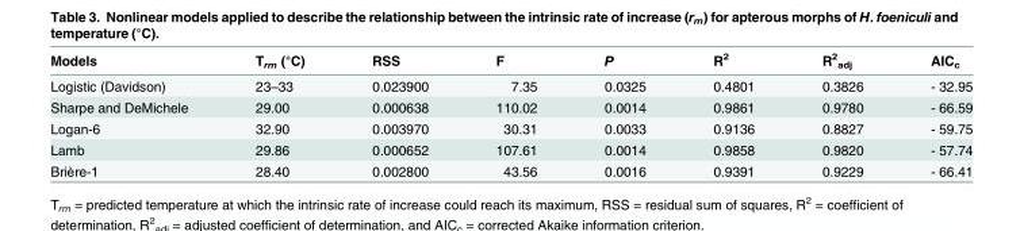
<table><thead><tr><td>Models</td><td>T<sub>rm</sub> (°C)</td><td>RSS</td><td>F</td><td>P</td><td>R<sup>2</sup></td><td>R<sup>2</sup> <sub>adj</sub></td><td>AIC<sub>c</sub></td></tr></thead><tbody><tr><td>Logistic (Davidson)</td><td>23–33</td><td>0.023900</td><td>7.35</td><td>0.0325</td><td>0.4801</td><td>0.3826</td><td>- 32.95</td></tr><tr><td>Sharpe and DeMichele</td><td>29.00</td><td>0.000638</td><td>110.02</td><td>0.0014</td><td>0.9861</td><td>0.9780</td><td>- 66.59</td></tr><tr><td>Logan-6</td><td>32.90</td><td>0.003970</td><td>30.31</td><td>0.0033</td><td>0.9136</td><td>0.8827</td><td>- 59.75</td></tr><tr><td>Lamb</td><td>29.86</td><td>0.000652</td><td>107.61</td><td>0.0014</td><td>0.9858</td><td>0.9820</td><td>- 57.74</td></tr><tr><td>Brière-1</td><td>28.40</td><td>0.002800</td><td>43.56</td><td>0.0016</td><td>0.9391</td><td>0.9229</td><td>- 66.41</td></tr></tbody></table>